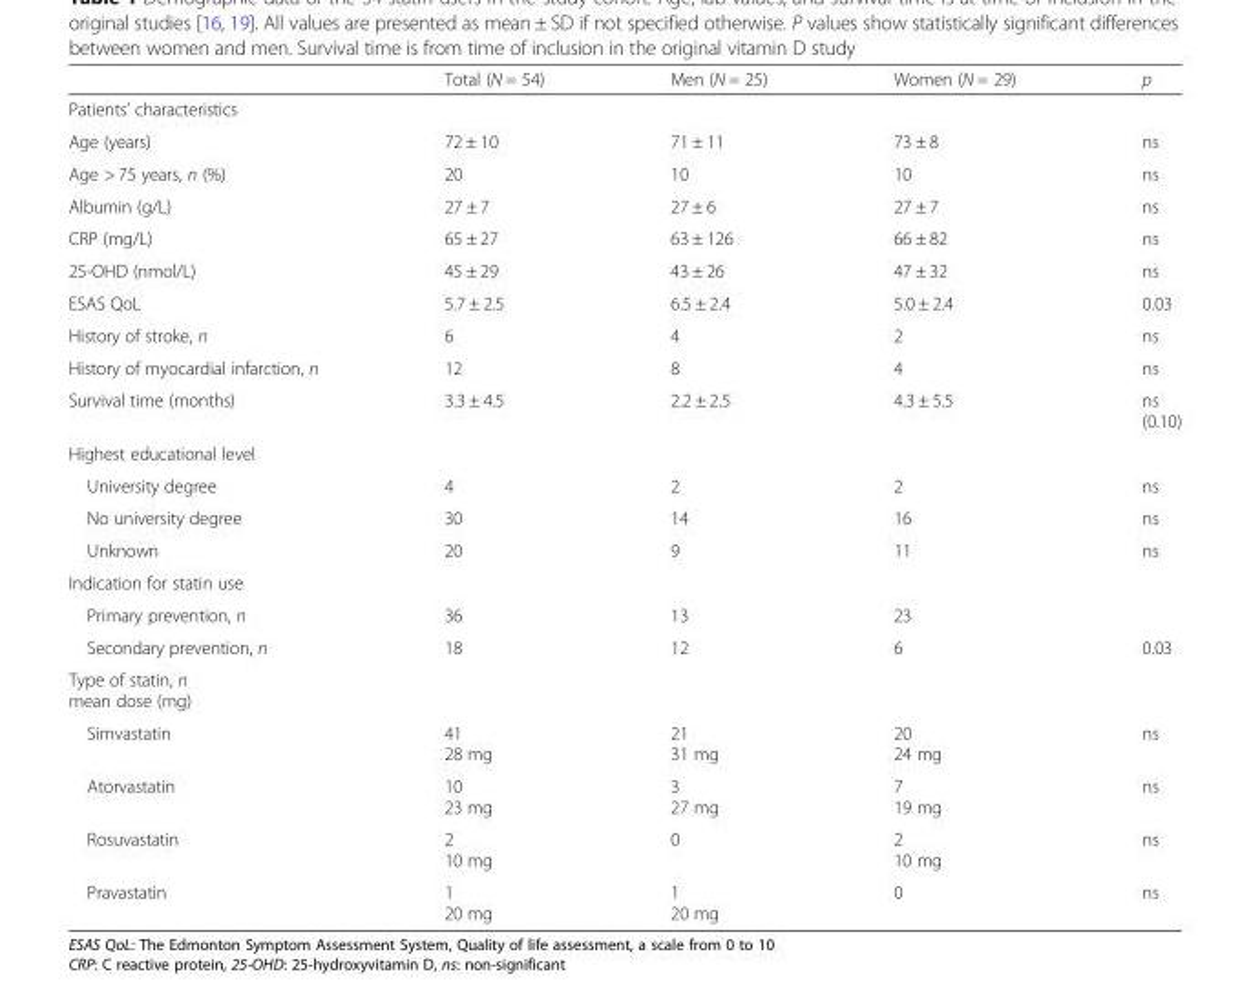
<table><thead><tr><td></td><td>Total (N = 54)</td><td>Men (N = 25)</td><td>Women (N = 29)</td><td>p</td></tr></thead><tbody><tr><td colspan="5">Patients’ characteristics</td></tr><tr><td>Age (years)</td><td>72 ± 10</td><td>71 ± 11</td><td>73 ± 8</td><td>ns</td></tr><tr><td>Age &gt; 75 years, n (%)</td><td>20</td><td>10</td><td>10</td><td>ns</td></tr><tr><td>Albumin (g/L)</td><td>27 ± 7</td><td>27 ± 6</td><td>27 ± 7</td><td>ns</td></tr><tr><td>CRP (mg/L)</td><td>65 ± 27</td><td>63 ± 126</td><td>66 ± 82</td><td>ns</td></tr><tr><td>25-OHD (nmol/L)</td><td>45 ± 29</td><td>43 ± 26</td><td>47 ± 32</td><td>ns</td></tr><tr><td>ESAS QoL</td><td>5.7 ± 2.5</td><td>6.5 ± 2.4</td><td>5.0 ± 2.4</td><td>0.03</td></tr><tr><td>History of stroke, n</td><td>6</td><td>4</td><td>2</td><td>ns</td></tr><tr><td>History of myocardial infarction, n</td><td>12</td><td>8</td><td>4</td><td>ns</td></tr><tr><td>Survival time (months)</td><td>3.3 ± 4.5</td><td>2.2 ± 2.5</td><td>4.3 ± 5.5</td><td>ns (0.10)</td></tr><tr><td colspan="5">Highest educational level</td></tr><tr><td>University degree</td><td>4</td><td>2</td><td>2</td><td>ns</td></tr><tr><td>No university degree</td><td>30</td><td>14</td><td>16</td><td>ns</td></tr><tr><td>Unknown</td><td>20</td><td>9</td><td>11</td><td>ns</td></tr><tr><td colspan="5">Indication for statin use</td></tr><tr><td>Primary prevention, n</td><td>36</td><td>13</td><td>23</td><td></td></tr><tr><td>Secondary prevention, n</td><td>18</td><td>12</td><td>6</td><td>0.03</td></tr><tr><td colspan="5">Type of statin, n mean dose (mg)</td></tr><tr><td>Simvastatin</td><td>41 28 mg</td><td>21 31 mg</td><td>20 24 mg</td><td>ns</td></tr><tr><td>Atorvastatin</td><td>10 23 mg</td><td>3 27 mg</td><td>7 19 mg</td><td>ns</td></tr><tr><td>Rosuvastatin</td><td>2 10 mg</td><td>0</td><td>2 10 mg</td><td>ns</td></tr><tr><td>Pravastatin</td><td>1 20 mg</td><td>1 20 mg</td><td>0</td><td>ns</td></tr></tbody></table>